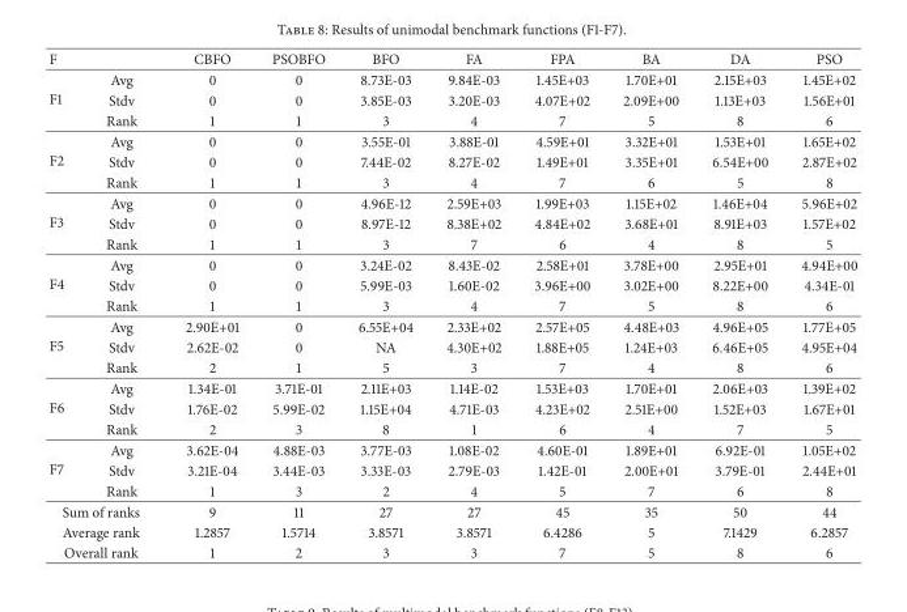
<table><thead><tr><td>F</td><td></td><td>CBFO</td><td>PSOBFO</td><td>BFO</td><td>FA</td><td>FPA</td><td>BA</td><td>DA</td><td>PSO</td></tr></thead><tbody><tr><td rowspan="3">F1</td><td>Avg</td><td>0</td><td>0</td><td>8.73E-03</td><td>9.84E-03</td><td>1.45E+03</td><td>1.70E+01</td><td>2.15E+03</td><td>1.45E+02</td></tr><tr><td>Stdv</td><td>0</td><td>0</td><td>3.85E-03</td><td>3.20E-03</td><td>4.07E+02</td><td>2.09E+00</td><td>1.13E+03</td><td>1.56E+01</td></tr><tr><td>Rank</td><td>1</td><td>1</td><td>3</td><td>4</td><td>7</td><td>5</td><td>8</td><td>6</td></tr><tr><td rowspan="3">F2</td><td>Avg</td><td>0</td><td>0</td><td>3.55E-01</td><td>3.88E-01</td><td>4.59E+01</td><td>3.32E+01</td><td>1.53E+01</td><td>1.65E+02</td></tr><tr><td>Stdv</td><td>0</td><td>0</td><td>7.44E-02</td><td>8.27E-02</td><td>1.49E+01</td><td>3.35E+01</td><td>6.54E+00</td><td>2.87E+02</td></tr><tr><td>Rank</td><td>1</td><td>1</td><td>3</td><td>4</td><td>7</td><td>6</td><td>5</td><td>8</td></tr><tr><td rowspan="3">F3</td><td>Avg</td><td>0</td><td>0</td><td>4.96E-12</td><td>2.59E+03</td><td>1.99E+03</td><td>1.15E+02</td><td>1.46E+04</td><td>5.96E+02</td></tr><tr><td>Stdv</td><td>0</td><td>0</td><td>8.97E-12</td><td>8.38E+02</td><td>4.84E+02</td><td>3.68E+01</td><td>8.91E+03</td><td>1.57E+02</td></tr><tr><td>Rank</td><td>1</td><td>1</td><td>3</td><td>7</td><td>6</td><td>4</td><td>8</td><td>5</td></tr><tr><td rowspan="3">F4</td><td>Avg</td><td>0</td><td>0</td><td>3.24E-02</td><td>8.43E-02</td><td>2.58E+01</td><td>3.78E+00</td><td>2.95E+01</td><td>4.94E+00</td></tr><tr><td>Stdv</td><td>0</td><td>0</td><td>5.99E-03</td><td>1.60E-02</td><td>3.96E+00</td><td>3.02E+00</td><td>8.22E+00</td><td>4.34E-01</td></tr><tr><td>Rank</td><td>1</td><td>1</td><td>3</td><td>4</td><td>7</td><td>5</td><td>8</td><td>6</td></tr><tr><td rowspan="3">F5</td><td>Avg</td><td>2.90E+01</td><td>0</td><td>6.55E+04</td><td>2.33E+02</td><td>2.57E+05</td><td>4.48E+03</td><td>4.96E+05</td><td>1.77E+05</td></tr><tr><td>Stdv</td><td>2.62E-02</td><td>0</td><td>NA</td><td>4.30E+02</td><td>1.88E+05</td><td>1.24E+03</td><td>6.46E+05</td><td>4.95E+04</td></tr><tr><td>Rank</td><td>2</td><td>1</td><td>5</td><td>3</td><td>7</td><td>4</td><td>8</td><td>6</td></tr><tr><td rowspan="3">F6</td><td>Avg</td><td>1.34E-01</td><td>3.71E-01</td><td>2.11E+03</td><td>1.14E-02</td><td>1.53E+03</td><td>1.70E+01</td><td>2.06E+03</td><td>1.39E+02</td></tr><tr><td>Stdv</td><td>1.76E-02</td><td>5.99E-02</td><td>1.15E+04</td><td>4.71E-03</td><td>4.23E+02</td><td>2.51E+00</td><td>1.52E+03</td><td>1.67E+01</td></tr><tr><td>Rank</td><td>2</td><td>3</td><td>8</td><td>1</td><td>6</td><td>4</td><td>7</td><td>5</td></tr><tr><td rowspan="3">F7</td><td>Avg</td><td>3.62E-04</td><td>4.88E-03</td><td>3.77E-03</td><td>1.08E-02</td><td>4.60E-01</td><td>1.89E+01</td><td>6.92E-01</td><td>1.05E+02</td></tr><tr><td>Stdv</td><td>3.21E-04</td><td>3.44E-03</td><td>3.33E-03</td><td>2.79E-03</td><td>1.42E-01</td><td>2.00E+01</td><td>3.79E-01</td><td>2.44E+01</td></tr><tr><td>Rank</td><td>1</td><td>3</td><td>2</td><td>4</td><td>5</td><td>7</td><td>6</td><td>8</td></tr><tr><td colspan="2">Sum of ranks</td><td>9</td><td>11</td><td>27</td><td>27</td><td>45</td><td>35</td><td>50</td><td>44</td></tr><tr><td colspan="2">Average rank</td><td>1.2857</td><td>1.5714</td><td>3.8571</td><td>3.8571</td><td>6.4286</td><td>5</td><td>7.1429</td><td>6.2857</td></tr><tr><td colspan="2">Overall rank</td><td>1</td><td>2</td><td>3</td><td>3</td><td>7</td><td>5</td><td>8</td><td>6</td></tr></tbody></table>